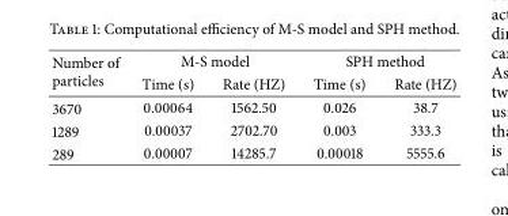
<table><thead><tr><td rowspan="2">Number of particles</td><td colspan="2">M-S model</td><td colspan="2">SPH method</td></tr><tr><td>Time (s)</td><td>Rate (HZ)</td><td>Time (s)</td><td>Rate (HZ)</td></tr></thead><tbody><tr><td>3670</td><td>0.00064</td><td>1562.50</td><td>0.026</td><td>38.7</td></tr><tr><td>1289</td><td>0.00037</td><td>2702.70</td><td>0.003</td><td>333.3</td></tr><tr><td>289</td><td>0.00007</td><td>14285.7</td><td>0.00018</td><td>5555.6</td></tr></tbody></table>